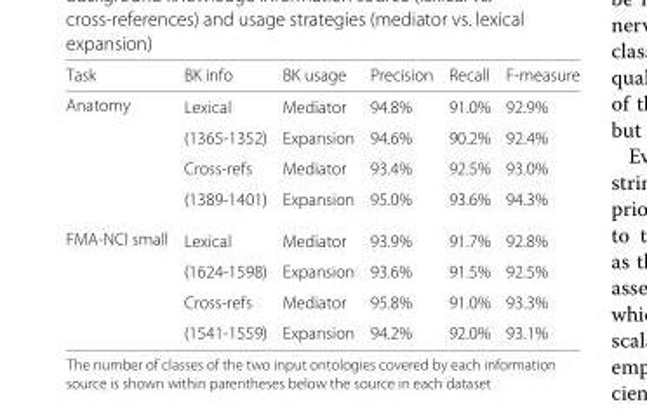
<table><thead><tr><td>Task</td><td>BK info</td><td>BK usage</td><td>Precision</td><td>Recall</td><td>F-measure</td></tr></thead><tbody><tr><td rowspan="4">Anatomy</td><td>Lexical</td><td>Mediator</td><td>94.8%</td><td>91.0%</td><td>92.9%</td></tr><tr><td>(1365-1352)</td><td>Expansion</td><td>94.6%</td><td>90.2%</td><td>92.4%</td></tr><tr><td>Cross-refs</td><td>Mediator</td><td>93.4%</td><td>92.5%</td><td>93.0%</td></tr><tr><td>(1389-1401)</td><td>Expansion</td><td>95.0%</td><td>93.6%</td><td>94.3%</td></tr><tr><td rowspan="4">FMA-NCI small</td><td>Lexical</td><td>Mediator</td><td>93.9%</td><td>91.7%</td><td>92.8%</td></tr><tr><td>(1624-1598)</td><td>Expansion</td><td>93.6%</td><td>91.5%</td><td>92.5%</td></tr><tr><td>Cross-refs</td><td>Mediator</td><td>95.8%</td><td>91.0%</td><td>93.3%</td></tr><tr><td>(1541-1559)</td><td>Expansion</td><td>94.2%</td><td>92.0%</td><td>93.1%</td></tr></tbody></table>